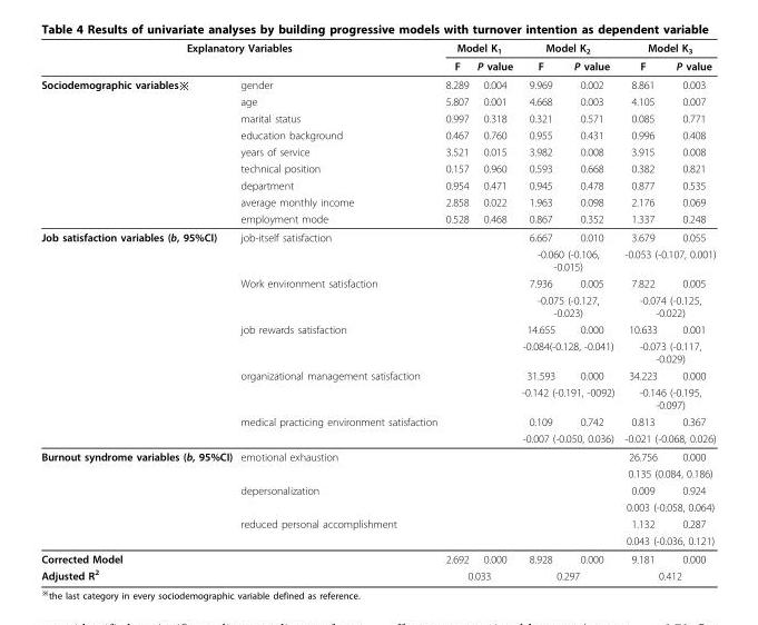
<table><thead><tr><td colspan="2">Explanatory Variables</td><td colspan="2">Model K<sub>1</sub></td><td colspan="2">Model K<sub>2</sub></td><td colspan="2">Model K<sub>3</sub></td></tr><tr><td></td><td></td><td>F</td><td>P value</td><td>F</td><td>P value</td><td>F</td><td>P value</td></tr></thead><tbody><tr><td rowspan="9">Sociodemographic variables※</td><td>gender</td><td>8.289</td><td>0.004</td><td>9.969</td><td>0.002</td><td>8.861</td><td>0.003</td></tr><tr><td>age</td><td>5.807</td><td>0.001</td><td>4.668</td><td>0.003</td><td>4.105</td><td>0.007</td></tr><tr><td>marital status</td><td>0.997</td><td>0.318</td><td>0.321</td><td>0.571</td><td>0.085</td><td>0.771</td></tr><tr><td>education background</td><td>0.467</td><td>0.760</td><td>0.955</td><td>0.431</td><td>0.996</td><td>0.408</td></tr><tr><td>years of service</td><td>3.521</td><td>0.015</td><td>3.982</td><td>0.008</td><td>3.915</td><td>0.008</td></tr><tr><td>technical position</td><td>0.157</td><td>0.960</td><td>0.593</td><td>0.668</td><td>0.382</td><td>0.821</td></tr><tr><td>department</td><td>0.954</td><td>0.471</td><td>0.945</td><td>0.478</td><td>0.877</td><td>0.535</td></tr><tr><td>average monthly income</td><td>2.858</td><td>0.022</td><td>1.963</td><td>0.098</td><td>2.176</td><td>0.069</td></tr><tr><td>employment mode</td><td>0.528</td><td>0.468</td><td>0.867</td><td>0.352</td><td>1.337</td><td>0.248</td></tr><tr><td rowspan="10">Job satisfaction variables (b, 95%CI)</td><td>job-itself satisfaction</td><td></td><td></td><td>6.667</td><td>0.010</td><td>3.679</td><td>0.055</td></tr><tr><td></td><td></td><td></td><td colspan="2">-0.060 (-0.106, -0.015)</td><td colspan="2">-0.053 (-0.107, 0.001)</td></tr><tr><td>Work environment satisfaction</td><td></td><td></td><td>7.936</td><td>0.005</td><td>7.822</td><td>0.005</td></tr><tr><td></td><td></td><td></td><td colspan="2">-0.075 (-0.127, -0.023)</td><td colspan="2">-0.074 (-0.125, -0.022)</td></tr><tr><td>job rewards satisfaction</td><td></td><td></td><td>14.655</td><td>0.000</td><td>10.633</td><td>0.001</td></tr><tr><td></td><td></td><td></td><td colspan="2">-0.084(-0.128, -0.041)</td><td colspan="2">-0.073 (-0.117, -0.029)</td></tr><tr><td>organizational management satisfaction</td><td></td><td></td><td>31.593</td><td>0.000</td><td>34.223</td><td>0.000</td></tr><tr><td></td><td></td><td></td><td colspan="2">-0.142 (-0.191, -0092)</td><td colspan="2">-0.146 (-0.195, -0.097)</td></tr><tr><td>medical practicing environment satisfaction</td><td></td><td></td><td>0.109</td><td>0.742</td><td>0.813</td><td>0.367</td></tr><tr><td></td><td></td><td></td><td colspan="2">-0.007 (-0.050, 0.036)</td><td colspan="2">-0.021 (-0.068, 0.026)</td></tr><tr><td rowspan="6">Burnout syndrome variables (b, 95%CI)</td><td>emotional exhaustion</td><td></td><td></td><td></td><td></td><td>26.756</td><td>0.000</td></tr><tr><td></td><td></td><td></td><td></td><td></td><td colspan="2">0.135 (0.084, 0.186)</td></tr><tr><td>depersonalization</td><td></td><td></td><td></td><td></td><td>0.009</td><td>0.924</td></tr><tr><td></td><td></td><td></td><td></td><td></td><td colspan="2">0.003 (-0.058, 0.064)</td></tr><tr><td>reduced personal accomplishment</td><td></td><td></td><td></td><td></td><td>1.132</td><td>0.287</td></tr><tr><td></td><td></td><td></td><td></td><td></td><td colspan="2">0.043 (-0.036, 0.121)</td></tr><tr><td colspan="2">Corrected Model</td><td>2.692</td><td>0.000</td><td>8.928</td><td>0.000</td><td>9.181</td><td>0.000</td></tr><tr><td colspan="2">Adjusted R<sup>2</sup></td><td colspan="2">0.033</td><td colspan="2">0.297</td><td colspan="2">0.412</td></tr></tbody></table>